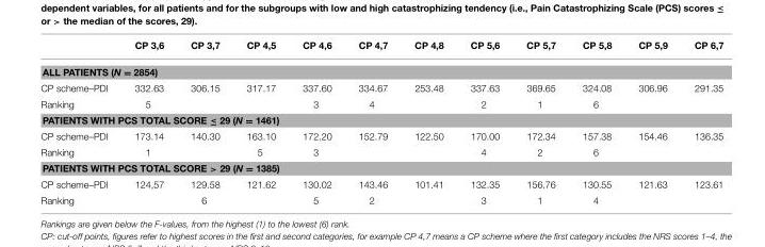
<table><thead><tr><td></td><td>CP 3,6</td><td>CP 3,7</td><td>CP 4,5</td><td>CP 4,6</td><td>CP 4,7</td><td>CP 4,8</td><td>CP 5,6</td><td>CP 5,7</td><td>CP 5,8</td><td>CP 5,9</td><td>CP 6,7</td></tr></thead><tbody><tr><td colspan="12">ALL PATIENTS (N = 2854)</td></tr><tr><td>CP scheme–PDI</td><td>332.63</td><td>306.15</td><td>317.17</td><td>337.60</td><td>334.67</td><td>253.48</td><td>337.63</td><td>369.65</td><td>324.08</td><td>306.96</td><td>291.35</td></tr><tr><td>Ranking</td><td>5</td><td></td><td></td><td>3</td><td>4</td><td></td><td>2</td><td>1</td><td>6</td><td></td><td></td></tr><tr><td colspan="12">PATIENTS WITH PCS TOTAL SCORE ≤ 29 (N = 1461)</td></tr><tr><td>CP scheme–PDI</td><td>173.14</td><td>140.30</td><td>163.10</td><td>172.20</td><td>152.79</td><td>122.50</td><td>170.00</td><td>172.34</td><td>157.38</td><td>154.46</td><td>136.35</td></tr><tr><td>Ranking</td><td>1</td><td></td><td>5</td><td>3</td><td></td><td></td><td>4</td><td>2</td><td>6</td><td></td><td></td></tr><tr><td colspan="12">PATIENTS WITH PCS TOTAL SCORE &gt; 29 (N = 1385)</td></tr><tr><td>CP scheme–PDI</td><td>124,57</td><td>129.58</td><td>121.62</td><td>130.02</td><td>143.46</td><td>101.41</td><td>132.35</td><td>156.76</td><td>130.55</td><td>121.63</td><td>123.61</td></tr><tr><td>Ranking</td><td></td><td>6</td><td></td><td>5</td><td>2</td><td></td><td>3</td><td>1</td><td>4</td><td></td><td></td></tr></tbody></table>